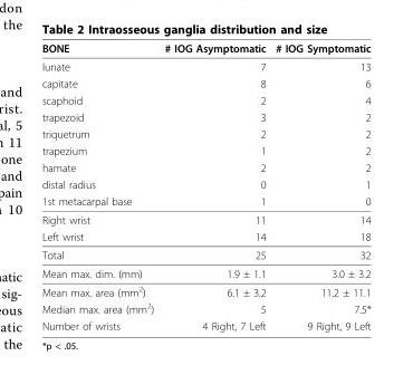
<table><thead><tr><td>BONE</td><td># IOG Asymptomatic</td><td># IOG Symptomatic</td></tr></thead><tbody><tr><td>lunate</td><td>7</td><td>13</td></tr><tr><td>capitate</td><td>8</td><td>6</td></tr><tr><td>scaphoid</td><td>2</td><td>4</td></tr><tr><td>trapezoid</td><td>3</td><td>2</td></tr><tr><td>triquetrum</td><td>2</td><td>2</td></tr><tr><td>trapezium</td><td>1</td><td>2</td></tr><tr><td>hamate</td><td>2</td><td>2</td></tr><tr><td>distal radius</td><td>0</td><td>1</td></tr><tr><td>1st metacarpal base</td><td>1</td><td>0</td></tr><tr><td>Right wrist</td><td>11</td><td>14</td></tr><tr><td>Left wrist</td><td>14</td><td>18</td></tr><tr><td>Total</td><td>25</td><td>32</td></tr><tr><td>Mean max. dim. (mm)</td><td>1.9 ± 1.1</td><td>3.0 ± 3.2</td></tr><tr><td>Mean max. area (mm<sup>2</sup>)</td><td>6.1 ± 3.2</td><td>11.2 ± 11.1</td></tr><tr><td>Median max. area (mm<sup>2</sup>)</td><td>5</td><td>7.5*</td></tr><tr><td>Number of wrists</td><td>4 Right, 7 Left</td><td>9 Right, 9 Left</td></tr></tbody></table>